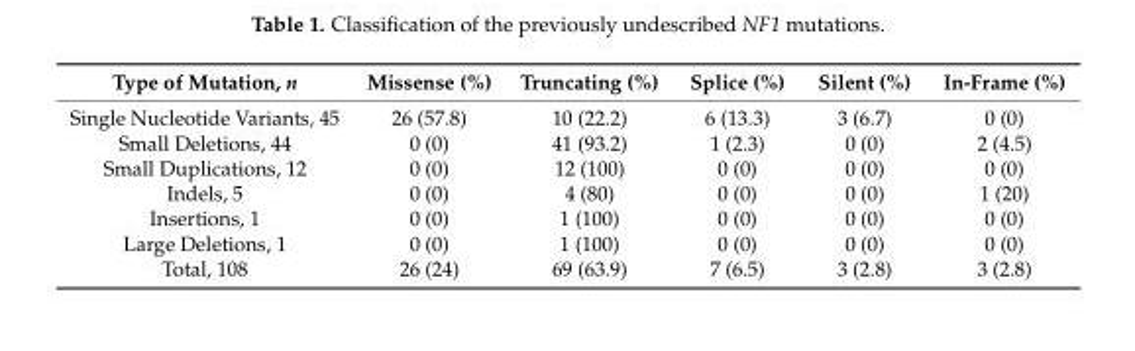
<table><thead><tr><td>Type of Mutation, n</td><td>Missense (%)</td><td>Truncating (%)</td><td>Splice (%)</td><td>Silent (%)</td><td>In-Frame (%)</td></tr></thead><tbody><tr><td>Single Nucleotide Variants, 45</td><td>26 (57.8)</td><td>10 (22.2)</td><td>6 (13.3)</td><td>3 (6.7)</td><td>0 (0)</td></tr><tr><td>Small Deletions, 44</td><td>0 (0)</td><td>41 (93.2)</td><td>1 (2.3)</td><td>0 (0)</td><td>2 (4.5)</td></tr><tr><td>Small Duplications, 12</td><td>0 (0)</td><td>12 (100)</td><td>0 (0)</td><td>0 (0)</td><td>0 (0)</td></tr><tr><td>Indels, 5</td><td>0 (0)</td><td>4 (80)</td><td>0 (0)</td><td>0 (0)</td><td>1 (20)</td></tr><tr><td>Insertions, 1</td><td>0 (0)</td><td>1 (100)</td><td>0 (0)</td><td>0 (0)</td><td>0 (0)</td></tr><tr><td>Large Deletions, 1</td><td>0 (0)</td><td>1 (100)</td><td>0 (0)</td><td>0 (0)</td><td>0 (0)</td></tr><tr><td>Total, 108</td><td>26 (24)</td><td>69 (63.9)</td><td>7 (6.5)</td><td>3 (2.8)</td><td>3 (2.8)</td></tr></tbody></table>